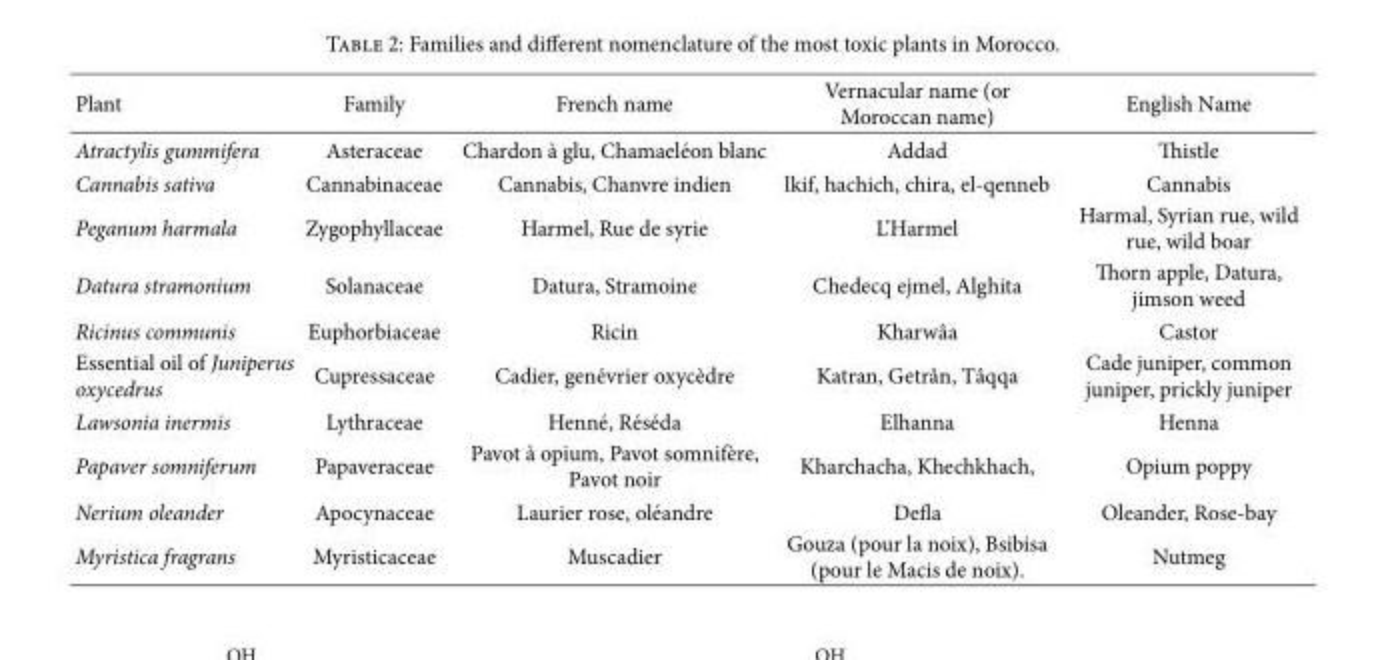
<table><thead><tr><td>Plant</td><td>Family</td><td>French name</td><td>Vernacular name (or Moroccan name)</td><td>English Name</td></tr></thead><tbody><tr><td>Atractylis gummifera</td><td>Asteraceae</td><td>Chardon `a glu, Chamael´eon blanc</td><td>Addad</td><td>Thistle</td></tr><tr><td>Cannabis sativa</td><td>Cannabinaceae</td><td>Cannabis, Chanvre indien</td><td>lkif, hachich, chira, el-qenneb</td><td>Cannabis</td></tr><tr><td>Peganum harmala</td><td>Zygophyllaceae</td><td>Harmel, Rue de syrie</td><td>L’Harmel</td><td>Harmal, Syrian rue, wild rue, wild boar</td></tr><tr><td>Datura stramonium</td><td>Solanaceae</td><td>Datura, Stramoine</td><td>Chedecq ejmel, Alghita</td><td>Thorn apple, Datura, jimson weed</td></tr><tr><td>Ricinus communis</td><td>Euphorbiaceae</td><td>Ricin</td><td>Kharwˆaa</td><td>Castor</td></tr><tr><td>Essential oil of Juniperus oxycedrus</td><td>Cupressaceae</td><td>Cadier, gen´evrier oxyc`edre</td><td>Katran, Getrˆan, Tˆaqqa</td><td>Cade juniper, common juniper, prickly juniper</td></tr><tr><td>Lawsonia inermis</td><td>Lythraceae</td><td>Henn´e, R´es´eda</td><td>Elhanna</td><td>Henna</td></tr><tr><td>Papaver somniferum</td><td>Papaveraceae</td><td>Pavot `a opium, Pavot somnif`ere, Pavot noir</td><td>Kharchacha, Khechkhach,</td><td>Opium poppy</td></tr><tr><td>Nerium oleander</td><td>Apocynaceae</td><td>Laurier rose, ol´eandre</td><td>Defla</td><td>Oleander, Rose-bay</td></tr><tr><td>Myristica fragrans</td><td>Myristicaceae</td><td>Muscadier</td><td>Gouza (pour la noix), Bsibisa (pour le Macis de noix).</td><td>Nutmeg</td></tr></tbody></table>